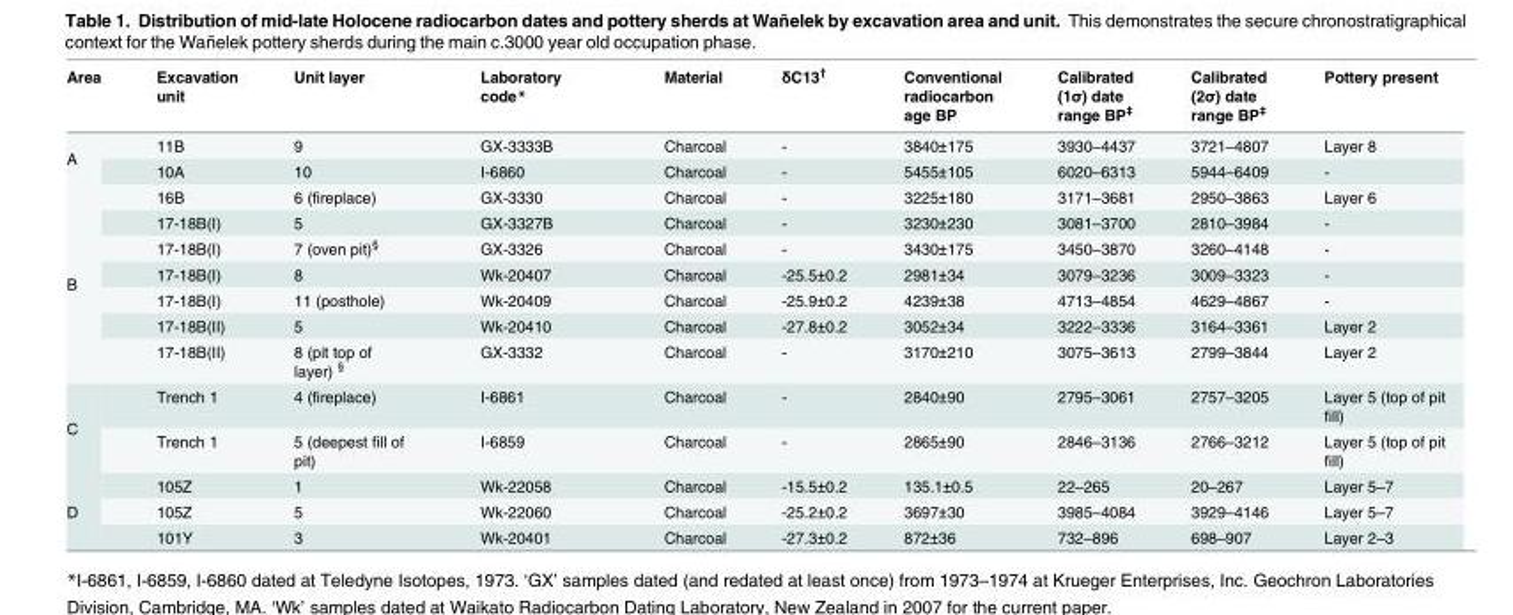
<table><thead><tr><td>Area</td><td>Excavation unit</td><td>Unit layer</td><td>Laboratory code*</td><td>Material</td><td>δC13<sup>†</sup></td><td>Conventional radiocarbon age BP</td><td>Calibrated (1σ) date range BP<sup>‡</sup></td><td>Calibrated (2σ) date range BP<sup>‡</sup></td><td>Pottery present</td></tr></thead><tbody><tr><td rowspan="2">A</td><td>11B</td><td>9</td><td>GX-3333B</td><td>Charcoal</td><td>-</td><td>3840±175</td><td>3930–4437</td><td>3721–4807</td><td>Layer 8</td></tr><tr><td>10A</td><td>10</td><td>I-6860</td><td>Charcoal</td><td>-</td><td>5455±105</td><td>6020–6313</td><td>5944–6409</td><td>-</td></tr><tr><td rowspan="7">B</td><td>16B</td><td>6 (fireplace)</td><td>GX-3330</td><td>Charcoal</td><td>-</td><td>3225±180</td><td>3171–3681</td><td>2950–3863</td><td>Layer 6</td></tr><tr><td>17-18B(I)</td><td>5</td><td>GX-3327B</td><td>Charcoal</td><td>-</td><td>3230±230</td><td>3081–3700</td><td>2810–3984</td><td>-</td></tr><tr><td>17-18B(I)</td><td>7 (oven pit)<sup>§</sup></td><td>GX-3326</td><td>Charcoal</td><td>-</td><td>3430±175</td><td>3450–3870</td><td>3260–4148</td><td>-</td></tr><tr><td>17-18B(I)</td><td>8</td><td>Wk-20407</td><td>Charcoal</td><td>-25.5±0.2</td><td>2981±34</td><td>3079–3236</td><td>3009–3323</td><td>-</td></tr><tr><td>17-18B(I)</td><td>11 (posthole)</td><td>Wk-20409</td><td>Charcoal</td><td>-25.9±0.2</td><td>4239±38</td><td>4713–4854</td><td>4629–4867</td><td>-</td></tr><tr><td>17-18B(II)</td><td>5</td><td>Wk-20410</td><td>Charcoal</td><td>-27.8±0.2</td><td>3052±34</td><td>3222–3336</td><td>3164–3361</td><td>Layer 2</td></tr><tr><td>17-18B(II)</td><td>8 (pit top of layer) <sup>§</sup></td><td>GX-3332</td><td>Charcoal</td><td>-</td><td>3170±210</td><td>3075–3613</td><td>2799–3844</td><td>Layer 2</td></tr><tr><td rowspan="2">C</td><td>Trench 1</td><td>4 (fireplace)</td><td>I-6861</td><td>Charcoal</td><td>-</td><td>2840±90</td><td>2795–3061</td><td>2757–3205</td><td>Layer 5 (top of pit fill)</td></tr><tr><td>Trench 1</td><td>5 (deepest fill of pit)</td><td>I-6859</td><td>Charcoal</td><td>-</td><td>2865±90</td><td>2846–3136</td><td>2766–3212</td><td>Layer 5 (top of pit fill)</td></tr><tr><td rowspan="3">D</td><td>105Z</td><td>1</td><td>Wk-22058</td><td>Charcoal</td><td>-15.5±0.2</td><td>135.1±0.5</td><td>22–265</td><td>20–267</td><td>Layer 5–7</td></tr><tr><td>105Z</td><td>5</td><td>Wk-22060</td><td>Charcoal</td><td>-25.2±0.2</td><td>3697±30</td><td>3985–4084</td><td>3929–4146</td><td>Layer 5–7</td></tr><tr><td>101Y</td><td>3</td><td>Wk-20401</td><td>Charcoal</td><td>-27.3±0.2</td><td>872±36</td><td>732–896</td><td>698–907</td><td>Layer 2–3</td></tr></tbody></table>